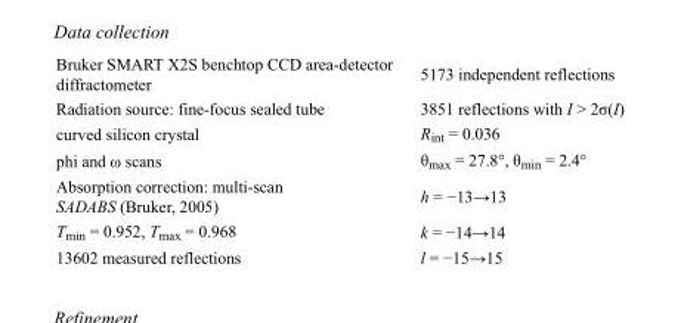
<table><tbody><tr><td>Bruker SMART X2S benchtop CCD area-detector diffractometer</td><td>5173 independent reflections</td></tr><tr><td>Radiation source: fine-focus sealed tube</td><td>3851 reflections with I &gt; 2σ(I)</td></tr><tr><td>curved silicon crystal</td><td>R<sub>int</sub> = 0.036</td></tr><tr><td>phi and ω scans</td><td>θ<sub>max</sub> = 27.8°, θ<sub>min</sub> = 2.4°</td></tr><tr><td>Absorption correction: multi-scan SADABS (Bruker, 2005)</td><td>h = −13→13</td></tr><tr><td>T<sub>min</sub> = 0.952, T<sub>max</sub> = 0.968</td><td>k = −14→14</td></tr><tr><td>13602 measured reflections</td><td>l = −15→15</td></tr></tbody></table>